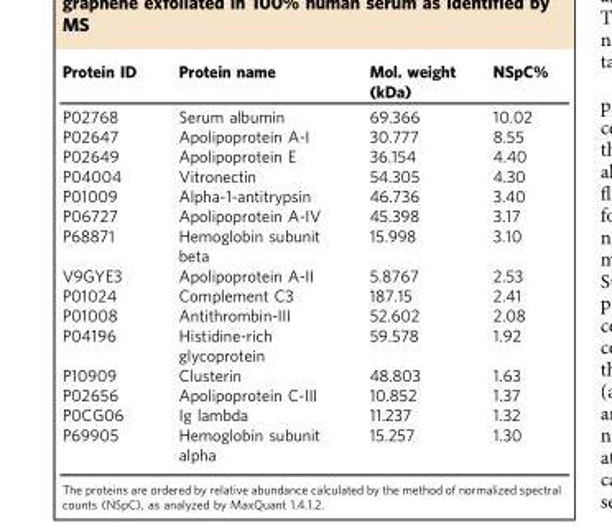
<table><thead><tr><td>Protein ID</td><td>Protein name</td><td>Mol. weight (kDa)</td><td>NSpC%</td></tr></thead><tbody><tr><td>P02768</td><td>Serum albumin</td><td>69.366</td><td>10.02</td></tr><tr><td>P02647</td><td>Apolipoprotein A-I</td><td>30.777</td><td>8.55</td></tr><tr><td>P02649</td><td>Apolipoprotein E</td><td>36.154</td><td>4.40</td></tr><tr><td>P04004</td><td>Vitronectin</td><td>54.305</td><td>4.30</td></tr><tr><td>P01009</td><td>Alpha-1-antitrypsin</td><td>46.736</td><td>3.40</td></tr><tr><td>P06727</td><td>Apolipoprotein A-IV</td><td>45.398</td><td>3.17</td></tr><tr><td>P68871</td><td>Hemoglobin subunit beta</td><td>15.998</td><td>3.10</td></tr><tr><td>V9GYE3</td><td>Apolipoprotein A-II</td><td>5.8767</td><td>2.53</td></tr><tr><td>P01024</td><td>Complement C3</td><td>187.15</td><td>2.41</td></tr><tr><td>P01008</td><td>Antithrombin-III</td><td>52.602</td><td>2.08</td></tr><tr><td>P04196</td><td>Histidine-rich glycoprotein</td><td>59.578</td><td>1.92</td></tr><tr><td>P10909</td><td>Clusterin</td><td>48.803</td><td>1.63</td></tr><tr><td>P02656</td><td>Apolipoprotein C-III</td><td>10.852</td><td>1.37</td></tr><tr><td>P0CG06</td><td>Ig lambda</td><td>11.237</td><td>1.32</td></tr><tr><td>P69905</td><td>Hemoglobin subunit alpha</td><td>15.257</td><td>1.30</td></tr></tbody></table>